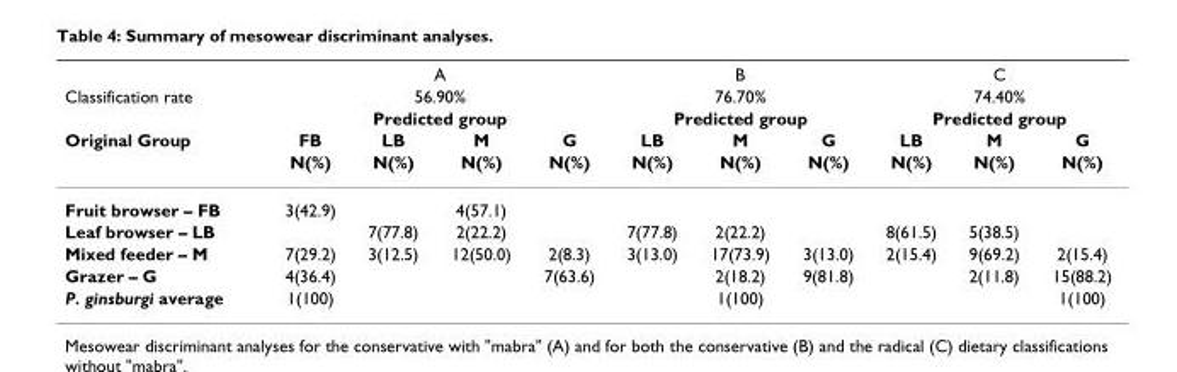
<table><thead><tr><td rowspan="5">Classification rate Original Group</td><td rowspan="3" colspan="4">A 56.90% Predicted group</td><td rowspan="3" colspan="3">B 76.70% Predicted group</td><td rowspan="3" colspan="3">C 74.40% Predicted group</td></tr><tr></tr><tr></tr><tr><td rowspan="2">FB N(%)</td><td rowspan="2">LB N(%)</td><td rowspan="2">M N(%)</td><td rowspan="2">G N(%)</td><td rowspan="2">LB N(%)</td><td rowspan="2">M N(%)</td><td rowspan="2">G N(%)</td><td rowspan="2">LB N(%)</td><td rowspan="2">M N(%)</td><td rowspan="2">G N(%)</td></tr><tr></tr></thead><tbody><tr><td>Fruit browser – FB</td><td>3(42.9)</td><td></td><td>4(57.1)</td><td></td><td></td><td></td><td></td><td></td><td></td><td></td></tr><tr><td>Leaf browser – LB</td><td></td><td>7(77.8)</td><td>2(22.2)</td><td></td><td>7(77.8)</td><td>2(22.2)</td><td></td><td>8(61.5)</td><td>5(38.5)</td><td></td></tr><tr><td>Mixed feeder – M</td><td>7(29.2)</td><td>3(12.5)</td><td>12(50.0)</td><td>2(8.3)</td><td>3(13.0)</td><td>17(73.9)</td><td>3(13.0)</td><td>2(15.4)</td><td>9(69.2)</td><td>2(15.4)</td></tr><tr><td>Grazer – G</td><td>4(36.4)</td><td></td><td></td><td>7(63.6)</td><td></td><td>2(18.2)</td><td>9(81.8)</td><td></td><td>2(11.8)</td><td>15(88.2)</td></tr><tr><td>P. ginsburgi average</td><td>1(100)</td><td></td><td></td><td></td><td></td><td>1(100)</td><td></td><td></td><td></td><td>1(100)</td></tr></tbody></table>